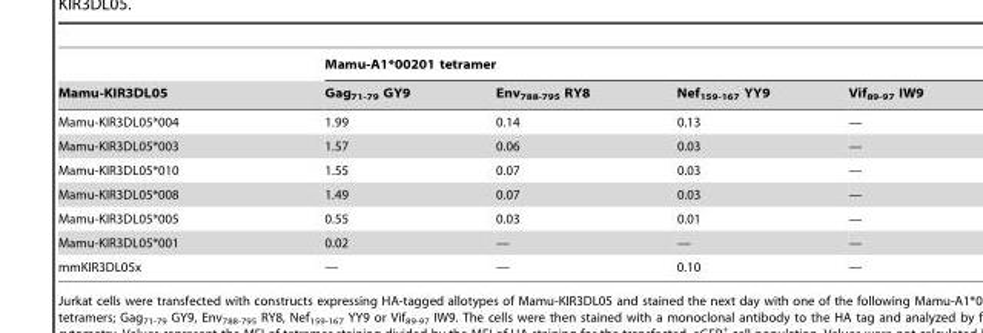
<table><thead><tr><td rowspan="2">Mamu-KIR3DL05</td><td colspan="4">Mamu-A1*00201 tetramer</td></tr><tr><td>Gag<sub>71-79</sub> GY9</td><td>Env<sub>788-795</sub> RY8</td><td>Nef<sub>159-167</sub> YY9</td><td>Vif<sub>89-97</sub> IW9</td></tr></thead><tbody><tr><td>Mamu-KIR3DL05*004</td><td>1.99</td><td>0.14</td><td>0.13</td><td>—</td></tr><tr><td>Mamu-KIR3DL05*003</td><td>1.57</td><td>0.06</td><td>0.03</td><td>—</td></tr><tr><td>Mamu-KIR3DL05*010</td><td>1.55</td><td>0.07</td><td>0.03</td><td>—</td></tr><tr><td>Mamu-KIR3DL05*008</td><td>1.49</td><td>0.07</td><td>0.03</td><td>—</td></tr><tr><td>Mamu-KIR3DL05*005</td><td>0.55</td><td>0.03</td><td>0.01</td><td>—</td></tr><tr><td>Mamu-KIR3DL05*001</td><td>0.02</td><td>—</td><td>—</td><td>—</td></tr><tr><td>mmKIR3DL05x</td><td>—</td><td>—</td><td>0.10</td><td>—</td></tr></tbody></table>